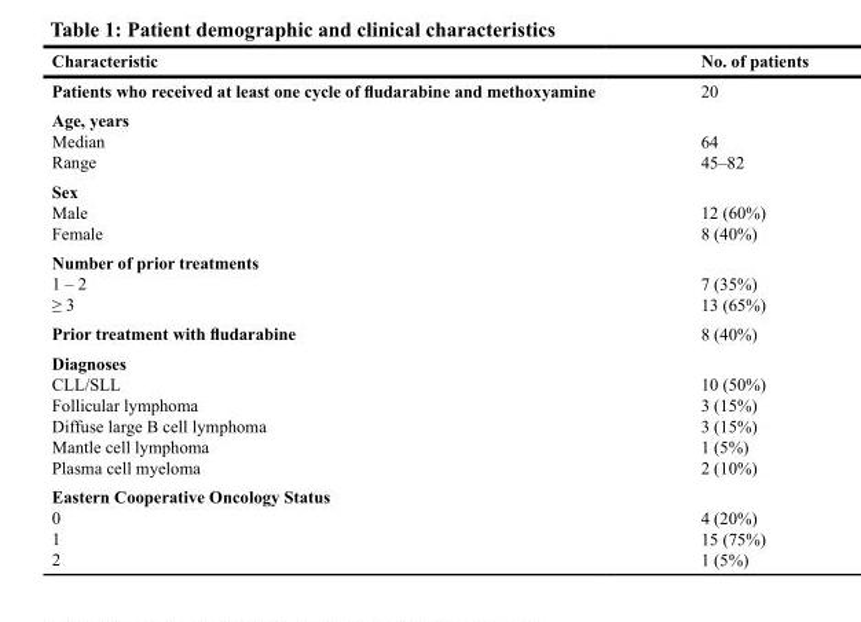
<table><thead><tr><td>Characteristic</td><td>No. of patients</td></tr></thead><tbody><tr><td>Patients who received at least one cycle of fludarabine and methoxyamine</td><td>20</td></tr><tr><td colspan="2">Age, years</td></tr><tr><td>Median</td><td>64</td></tr><tr><td>Range</td><td>45–82</td></tr><tr><td colspan="2">Sex</td></tr><tr><td>Male</td><td>12 (60%)</td></tr><tr><td>Female</td><td>8 (40%)</td></tr><tr><td colspan="2">Number of prior treatments</td></tr><tr><td>1 – 2</td><td>7 (35%)</td></tr><tr><td>≥ 3</td><td>13 (65%)</td></tr><tr><td>Prior treatment with fludarabine</td><td>8 (40%)</td></tr><tr><td colspan="2">Diagnoses</td></tr><tr><td>CLL/SLL</td><td>10 (50%)</td></tr><tr><td>Follicular lymphoma</td><td>3 (15%)</td></tr><tr><td>Diffuse large B cell lymphoma</td><td>3 (15%)</td></tr><tr><td>Mantle cell lymphoma</td><td>1 (5%)</td></tr><tr><td>Plasma cell myeloma</td><td>2 (10%)</td></tr><tr><td colspan="2">Eastern Cooperative Oncology Status</td></tr><tr><td>0</td><td>4 (20%)</td></tr><tr><td>1</td><td>15 (75%)</td></tr><tr><td>2</td><td>1 (5%)</td></tr></tbody></table>